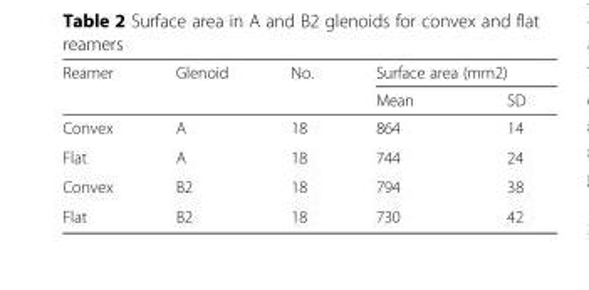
<table><thead><tr><td rowspan="2">Reamer</td><td rowspan="2">Glenoid</td><td rowspan="2">No.</td><td colspan="2">Surface area (mm2)</td></tr><tr><td>Mean</td><td>SD</td></tr></thead><tbody><tr><td>Convex</td><td>A</td><td>18</td><td>864</td><td>14</td></tr><tr><td>Flat</td><td>A</td><td>18</td><td>744</td><td>24</td></tr><tr><td>Convex</td><td>B2</td><td>18</td><td>794</td><td>38</td></tr><tr><td>Flat</td><td>B2</td><td>18</td><td>730</td><td>42</td></tr></tbody></table>